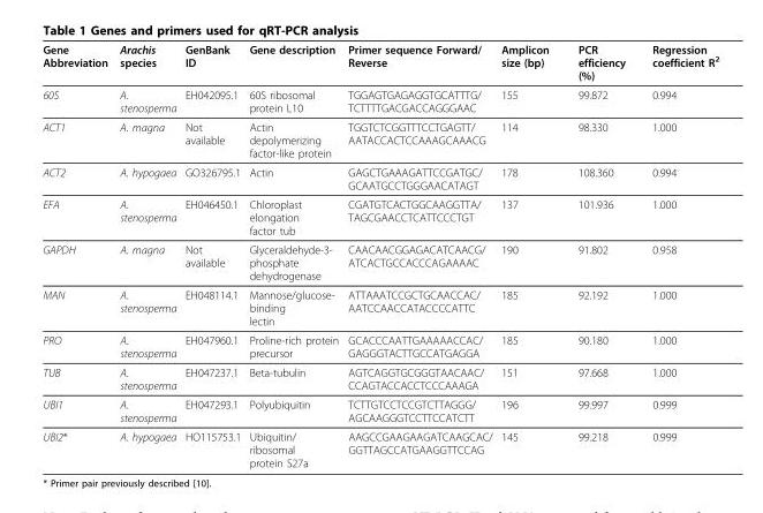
<table><thead><tr><td>Gene Abbreviation</td><td>Arachis species</td><td>GenBank ID</td><td>Gene description</td><td>Primer sequence Forward/ Reverse</td><td>Amplicon size (bp)</td><td>PCR efficiency (%)</td><td>Regression coefficient R<sup>2</sup></td></tr></thead><tbody><tr><td>60S</td><td>A. stenosperma</td><td>EH042095.1</td><td>60S ribosomal protein L10</td><td>TGGAGTGAGAGGTGCATTTG/ TCTTTTGACGACCAGGGAAC</td><td>155</td><td>99.872</td><td>0.994</td></tr><tr><td>ACT1</td><td>A. magna</td><td>Not available</td><td>Actin depolymerizing factor-like protein</td><td>TGGTCTCGGTTTCCTGAGTT/ AATACCACTCCAAAGCAAACG</td><td>114</td><td>98.330</td><td>1.000</td></tr><tr><td>ACT2</td><td>A. hypogaea</td><td>GO326795.1</td><td>Actin</td><td>GAGCTGAAAGATTCCGATGC/ GCAATGCCTGGGAACATAGT</td><td>178</td><td>108.360</td><td>0.994</td></tr><tr><td>EFA</td><td>A. stenosperma</td><td>EH046450.1</td><td>Chloroplast elongation factor tub</td><td>CGATGTCACTGGCAAGGTTA/ TAGCGAACCTCATTCCCTGT</td><td>137</td><td>101.936</td><td>1.000</td></tr><tr><td>GAPDH</td><td>A. magna</td><td>Not available</td><td>Glyceraldehyde-3- phosphate dehydrogenase</td><td>CAACAACGGAGACATCAACG/ ATCACTGCCACCCAGAAAAC</td><td>190</td><td>91.802</td><td>0.958</td></tr><tr><td>MAN</td><td>A. stenosperma</td><td>EH048114.1</td><td>Mannose/glucose- binding lectin</td><td>ATTAAATCCGCTGCAACCAC/ AATCCAACCATACCCCATTC</td><td>185</td><td>92.192</td><td>1.000</td></tr><tr><td>PRO</td><td>A. stenosperma</td><td>EH047960.1</td><td>Proline-rich protein precursor</td><td>GCACCCAATTGAAAAACCAC/ GAGGGTACTTGCCATGAGGA</td><td>185</td><td>90.180</td><td>1.000</td></tr><tr><td>TUB</td><td>A. stenosperma</td><td>EH047237.1</td><td>Beta-tubulin</td><td>AGTCAGGTGCGGGTAACAAC/ CCAGTACCACCTCCCAAAGA</td><td>151</td><td>97.668</td><td>1.000</td></tr><tr><td>UBI1</td><td>A. stenosperma</td><td>EH047293.1</td><td>Polyubiquitin</td><td>TCTTGTCCTCCGTCTTAGGG/ AGCAAGGGTCCTTCCATCTT</td><td>196</td><td>99.997</td><td>0.999</td></tr><tr><td>UBI2*</td><td>A. hypogaea</td><td>HO115753.1</td><td>Ubiquitin/ ribosomal protein S27a</td><td>AAGCCGAAGAAGATCAAGCAC/ GGTTAGCCATGAAGGTTCCAG</td><td>145</td><td>99.218</td><td>0.999</td></tr></tbody></table>